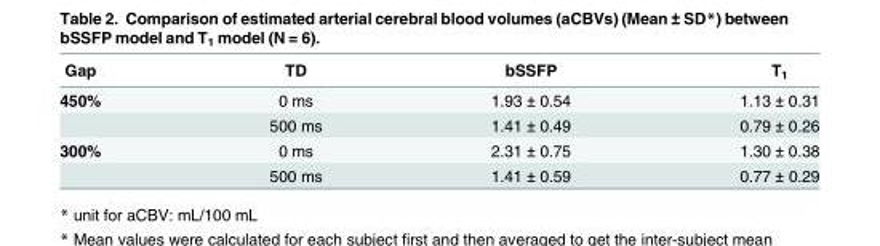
<table><thead><tr><td>Gap</td><td>TD</td><td>bSSFP</td><td>T<sub>1</sub></td></tr></thead><tbody><tr><td rowspan="2">450%</td><td>0 ms</td><td>1.93 ± 0.54</td><td>1.13 ± 0.31</td></tr><tr><td>500 ms</td><td>1.41 ± 0.49</td><td>0.79 ± 0.26</td></tr><tr><td rowspan="2">300%</td><td>0 ms</td><td>2.31 ± 0.75</td><td>1.30 ± 0.38</td></tr><tr><td>500 ms</td><td>1.41 ± 0.59</td><td>0.77 ± 0.29</td></tr></tbody></table>